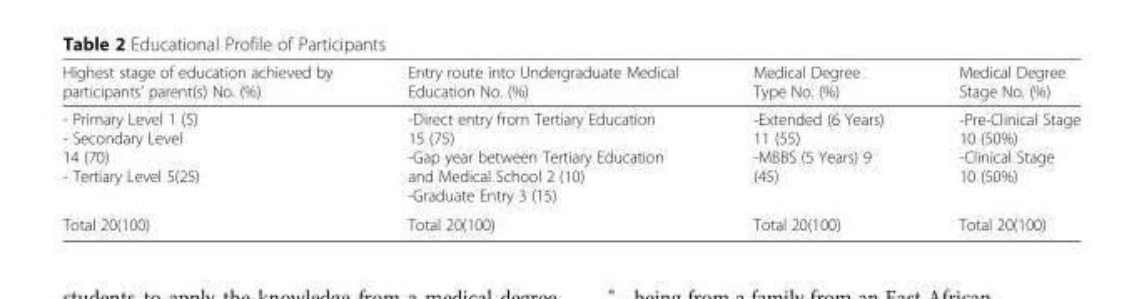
<table><thead><tr><td>Highest stage of education achieved by participants’ parent(s) No. (%)</td><td>Entry route into Undergraduate Medical Education No. (%)</td><td>Medical Degree Type No. (%)</td><td>Medical Degree Stage No. (%)</td></tr></thead><tbody><tr><td>- Primary Level 1 (5) - Secondary Level 14 (70) - Tertiary Level 5(25)</td><td>-Direct entry from Tertiary Education 15 (75) -Gap year between Tertiary Education and Medical School 2 (10) -Graduate Entry 3 (15)</td><td>-Extended (6 Years) 11 (55) -MBBS (5 Years) 9 (45)</td><td>-Pre-Clinical Stage 10 (50%) -Clinical Stage 10 (50%)</td></tr><tr><td>Total 20(100)</td><td>Total 20(100)</td><td>Total 20(100)</td><td>Total 20(100)</td></tr></tbody></table>